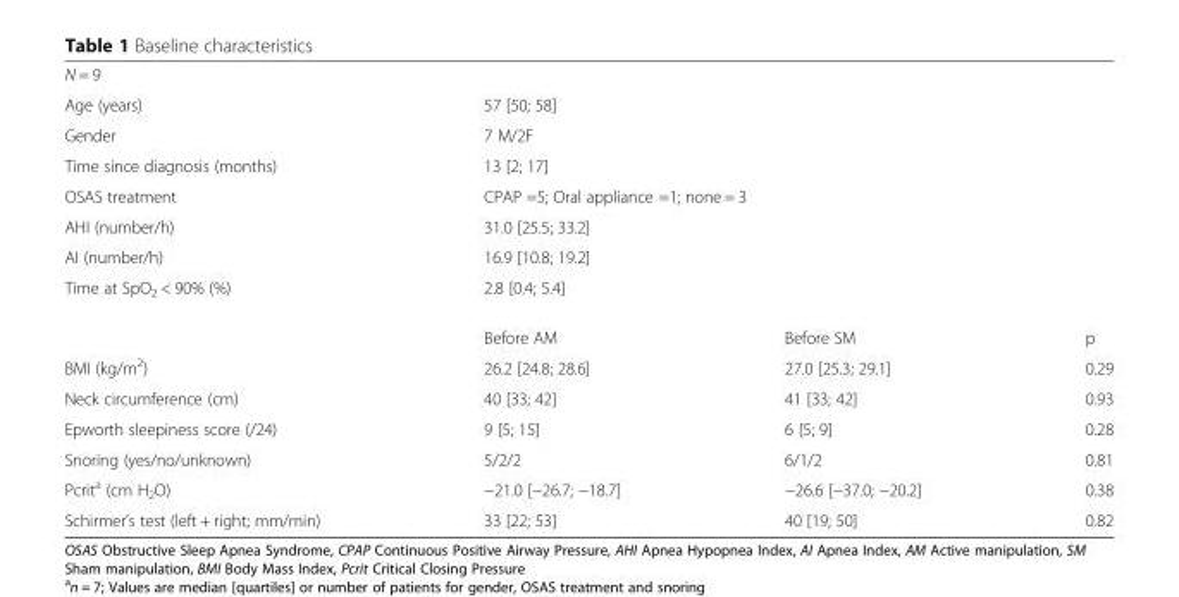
<table><tbody><tr><td colspan="4">N = 9</td></tr><tr><td>Age (years)</td><td colspan="3">57 [50; 58]</td></tr><tr><td>Gender</td><td colspan="3">7 M/2F</td></tr><tr><td>Time since diagnosis (months)</td><td colspan="3">13 [2; 17]</td></tr><tr><td>OSAS treatment</td><td colspan="3">CPAP =5; Oral appliance =1; none = 3</td></tr><tr><td>AHI (number/h)</td><td colspan="3">31.0 [25.5; 33.2]</td></tr><tr><td>AI (number/h)</td><td colspan="3">16.9 [10.8; 19.2]</td></tr><tr><td rowspan="2">Time at SpO<sub>2</sub> &lt; 90% (%)</td><td colspan="3">2.8 [0.4; 5.4]</td></tr><tr><td>Before AM</td><td>Before SM</td><td>p</td></tr><tr><td>BMI (kg/m<sup>2</sup>)</td><td>26.2 [24.8; 28.6]</td><td>27.0 [25.3; 29.1]</td><td>0.29</td></tr><tr><td>Neck circumference (cm)</td><td>40 [33; 42]</td><td>41 [33; 42]</td><td>0.93</td></tr><tr><td>Epworth sleepiness score (/24)</td><td>9 [5; 15]</td><td>6 [5; 9]</td><td>0.28</td></tr><tr><td>Snoring (yes/no/unknown)</td><td>5/2/2</td><td>6/1/2</td><td>0.81</td></tr><tr><td>Pcrit<sup>a</sup> (cm H<sub>2</sub>O)</td><td>−21.0 [−26.7; −18.7]</td><td>−26.6 [−37.0; −20.2]</td><td>0.38</td></tr><tr><td>Schirmer’s test (left + right; mm/min)</td><td>33 [22; 53]</td><td>40 [19; 50]</td><td>0.82</td></tr></tbody></table>